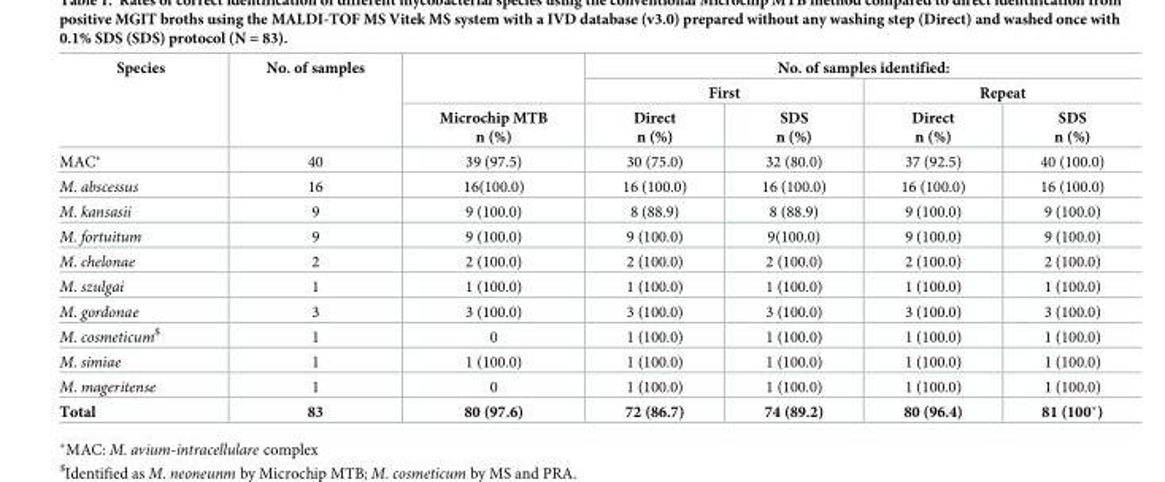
<table><thead><tr><td rowspan="3">Species</td><td rowspan="3">No. of samples</td><td rowspan="3">Microchip MTB n (%)</td><td colspan="4">No. of samples identified:</td></tr><tr><td colspan="2">First</td><td colspan="2">Repeat</td></tr><tr><td>Direct n (%)</td><td>SDS n (%)</td><td>Direct n (%)</td><td>SDS n (%)</td></tr></thead><tbody><tr><td>MAC*</td><td>40</td><td>39 (97.5)</td><td>30 (75.0)</td><td>32 (80.0)</td><td>37 (92.5)</td><td>40 (100.0)</td></tr><tr><td>M. abscessus</td><td>16</td><td>16(100.0)</td><td>16 (100.0)</td><td>16 (100.0)</td><td>16 (100.0)</td><td>16 (100.0)</td></tr><tr><td>M. kansasii</td><td>9</td><td>9 (100.0)</td><td>8 (88.9)</td><td>8 (88.9)</td><td>9 (100.0)</td><td>9 (100.0)</td></tr><tr><td>M. fortuitum</td><td>9</td><td>9 (100.0)</td><td>9 (100.0)</td><td>9(100.0)</td><td>9 (100.0)</td><td>9 (100.0)</td></tr><tr><td>M. chelonae</td><td>2</td><td>2 (100.0)</td><td>2 (100.0)</td><td>2 (100.0)</td><td>2 (100.0)</td><td>2 (100.0)</td></tr><tr><td>M. szulgai</td><td>1</td><td>1 (100.0)</td><td>1 (100.0)</td><td>1 (100.0)</td><td>1 (100.0)</td><td>1 (100.0)</td></tr><tr><td>M. gordonae</td><td>3</td><td>3 (100.0)</td><td>3 (100.0)</td><td>3 (100.0)</td><td>3 (100.0)</td><td>3 (100.0)</td></tr><tr><td>M. cosmeticum<sup>$</sup></td><td>1</td><td>0</td><td>1 (100.0)</td><td>1 (100.0)</td><td>1 (100.0)</td><td>1 (100.0)</td></tr><tr><td>M. simiae</td><td>1</td><td>1 (100.0)</td><td>1 (100.0)</td><td>1 (100.0)</td><td>1 (100.0)</td><td>1 (100.0)</td></tr><tr><td>M. mageritense</td><td>1</td><td>0</td><td>1 (100.0)</td><td>1 (100.0)</td><td>1 (100.0)</td><td>1 (100.0)</td></tr><tr><td>Total</td><td>83</td><td>80 (97.6)</td><td>72 (86.7)</td><td>74 (89.2)</td><td>80 (96.4)</td><td>81 (100*)</td></tr></tbody></table>